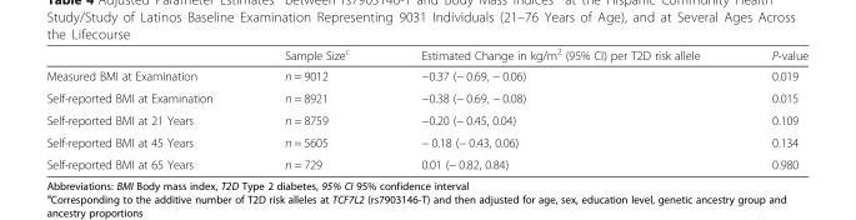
<table><thead><tr><td></td><td>Sample Size<sup>c</sup></td><td>Estimated Change in kg/m<sup>2</sup> (95% CI) per T2D risk allele</td><td>P-value</td></tr></thead><tbody><tr><td>Measured BMI at Examination</td><td>n = 9012</td><td>−0.37 (− 0.69, − 0.06)</td><td>0.019</td></tr><tr><td>Self-reported BMI at Examination</td><td>n = 8921</td><td>−0.38 (− 0.69, − 0.08)</td><td>0.015</td></tr><tr><td>Self-reported BMI at 21 Years</td><td>n = 8759</td><td>−0.20 (− 0.45, 0.04)</td><td>0.109</td></tr><tr><td>Self-reported BMI at 45 Years</td><td>n = 5605</td><td>− 0.18 (− 0.43, 0.06)</td><td>0.134</td></tr><tr><td>Self-reported BMI at 65 Years</td><td>n = 729</td><td>0.01 (− 0.82, 0.84)</td><td>0.980</td></tr></tbody></table>